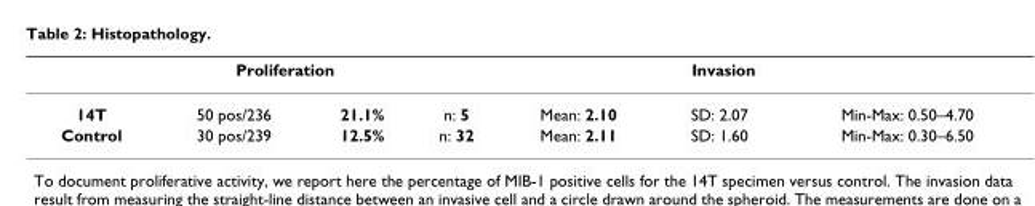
<table><thead><tr><td rowspan="2">14T</td><td colspan="2">Proliferation</td><td colspan="4">Invasion</td></tr><tr><td>50 pos/236</td><td>21.1%</td><td>n: 5</td><td>Mean: 2.10</td><td>SD: 2.07</td><td>Min-Max: 0.50–4.70</td></tr></thead><tbody><tr><td>Control</td><td>30 pos/239</td><td>12.5%</td><td>n: 32</td><td>Mean: 2.11</td><td>SD: 1.60</td><td>Min-Max: 0.30–6.50</td></tr></tbody></table>